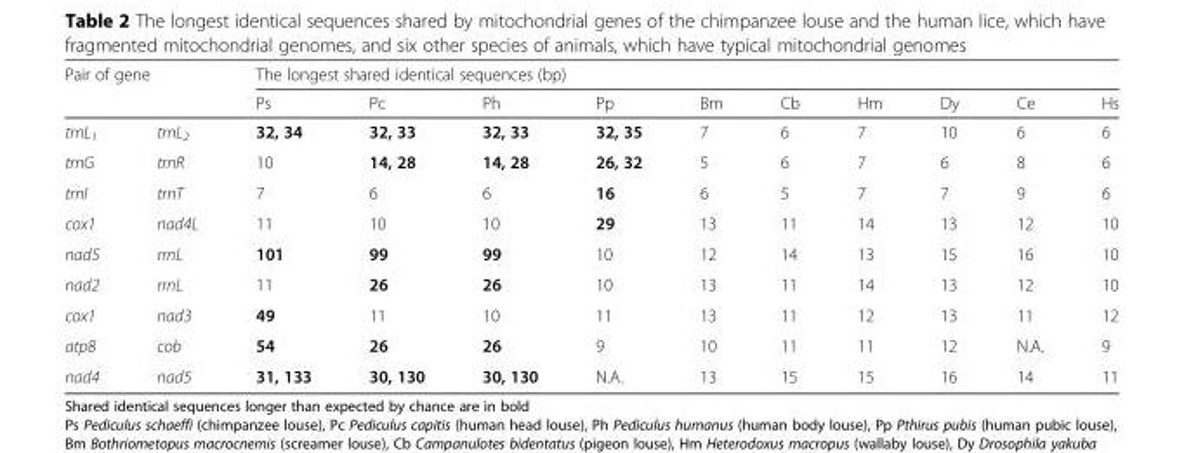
<table><thead><tr><td rowspan="2" colspan="2">Pair of gene</td><td colspan="10">The longest shared identical sequences (bp)</td></tr><tr><td rowspan="2">Ps 32, 34</td><td rowspan="2">Pc 32, 33</td><td rowspan="2">Ph 32, 33</td><td rowspan="2">Pp 32, 35</td><td rowspan="2">Bm 7</td><td rowspan="2">Cb 6</td><td rowspan="2">Hm 7</td><td rowspan="2">Dy 10</td><td rowspan="2">Ce 6</td><td rowspan="2">Hs 6</td></tr><tr><td>trnL<sub>1</sub></td><td>trnL<sub>2</sub></td></tr></thead><tbody><tr><td>trnG</td><td>trnR</td><td>10</td><td>14, 28</td><td>14, 28</td><td>26, 32</td><td>5</td><td>6</td><td>7</td><td>6</td><td>8</td><td>6</td></tr><tr><td>trnI</td><td>trnT</td><td>7</td><td>6</td><td>6</td><td>16</td><td>6</td><td>5</td><td>7</td><td>7</td><td>9</td><td>6</td></tr><tr><td>cox1</td><td>nad4L</td><td>11</td><td>10</td><td>10</td><td>29</td><td>13</td><td>11</td><td>14</td><td>13</td><td>12</td><td>10</td></tr><tr><td>nad5</td><td>rrnL</td><td>101</td><td>99</td><td>99</td><td>10</td><td>12</td><td>14</td><td>13</td><td>15</td><td>16</td><td>10</td></tr><tr><td>nad2</td><td>rrnL</td><td>11</td><td>26</td><td>26</td><td>10</td><td>13</td><td>11</td><td>14</td><td>13</td><td>12</td><td>10</td></tr><tr><td>cox1</td><td>nad3</td><td>49</td><td>11</td><td>10</td><td>11</td><td>13</td><td>11</td><td>12</td><td>13</td><td>11</td><td>12</td></tr><tr><td>atp8</td><td>cob</td><td>54</td><td>26</td><td>26</td><td>9</td><td>10</td><td>11</td><td>11</td><td>12</td><td>N.A.</td><td>9</td></tr><tr><td>nad4</td><td>nad5</td><td>31, 133</td><td>30, 130</td><td>30, 130</td><td>N.A.</td><td>13</td><td>15</td><td>15</td><td>16</td><td>14</td><td>11</td></tr></tbody></table>